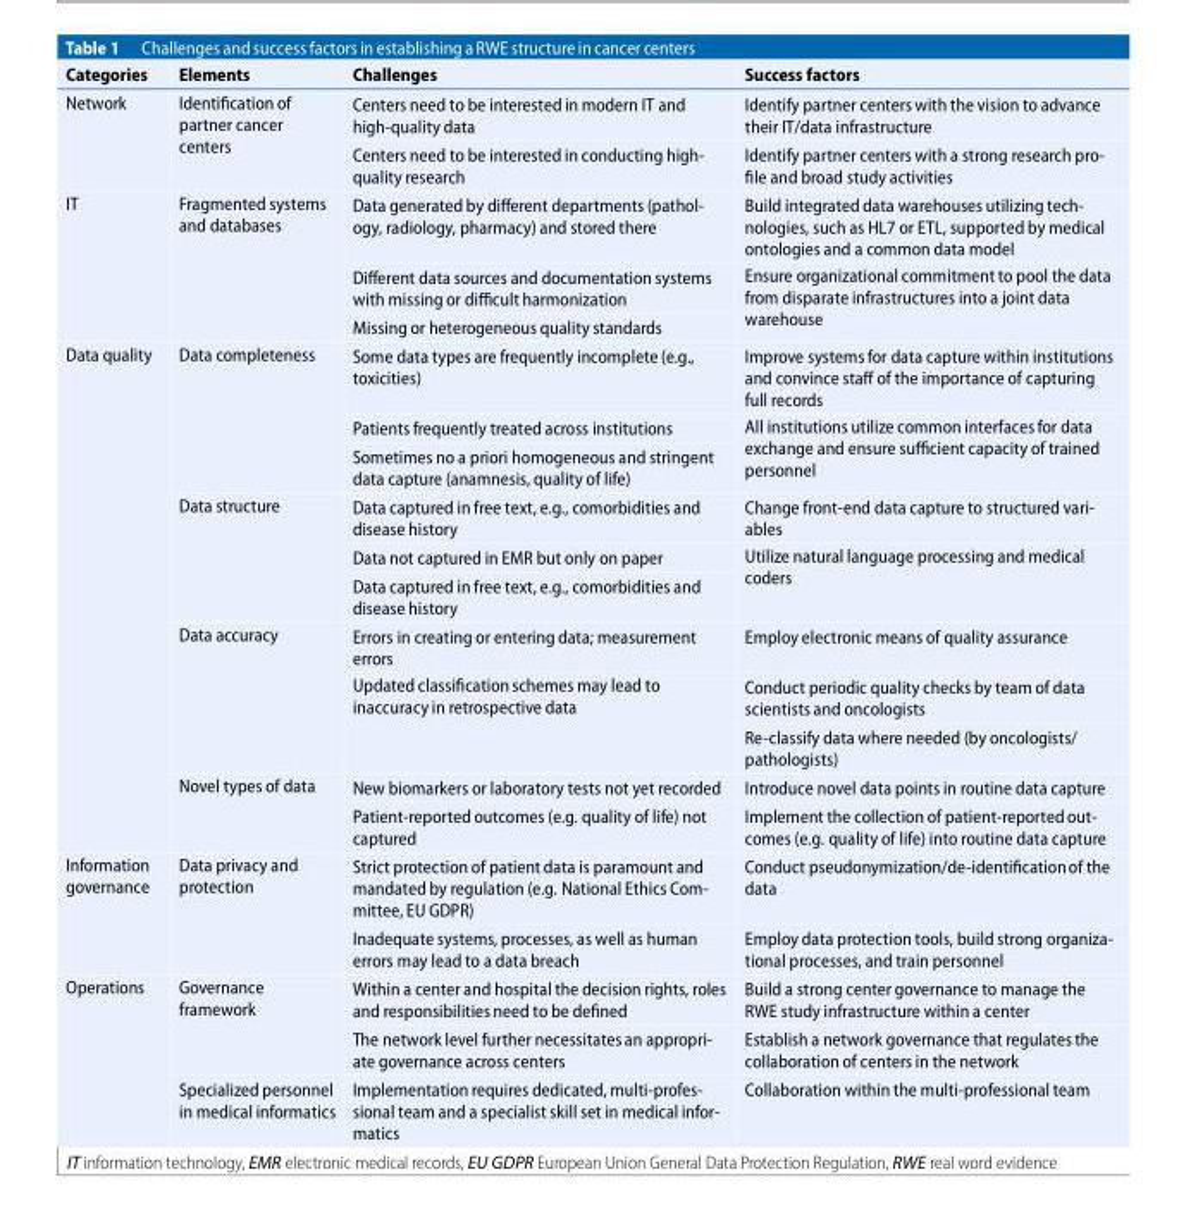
<table><thead><tr><td>Categories</td><td>Elements</td><td>Challenges</td><td>Success factors</td></tr></thead><tbody><tr><td rowspan="2">Network</td><td rowspan="2">Identification of partner cancer centers</td><td>Centers need to be interested in modern IT and high-quality data</td><td>Identify partner centers with the vision to advance their IT/data infrastructure</td></tr><tr><td>Centers need to be interested in conducting high- quality research</td><td>Identify partner centers with a strong research pro- file and broad study activities</td></tr><tr><td rowspan="3">IT</td><td rowspan="3">Fragmented systems and databases</td><td>Data generated by different departments (pathol- ogy, radiology, pharmacy) and stored there</td><td>Build integrateddata warehouses utilizing tech- nologies, such as HL7 or ETL, supported by medical ontologies and a common data model</td></tr><tr><td>Different data sources and documentation systems with missing or difficult harmonization</td><td rowspan="2">Ensure organizational commitment to pool the data from disparate infrastructures into a joint data warehouse</td></tr><tr><td>Missing or heterogeneous quality standards</td></tr><tr><td rowspan="11">Data quality</td><td rowspan="3">Data completeness</td><td>Some data types are frequently incomplete(e.g., toxicities)</td><td>Improve systems for data capture within institutions and convince staff of the importance of capturing full records</td></tr><tr><td>Patients frequently treated across institutions</td><td rowspan="2">All institutions utilize common interfaces for data exchange and ensure sufficient capacity of trained personnel</td></tr><tr><td>Sometimes no a priori homogeneous and stringent data capture (anamnesis, quality of life)</td></tr><tr><td rowspan="3">Data structure</td><td>Data captured in free text, e.g., comorbidities and disease history</td><td>Change front-end data capture to structured vari- ables</td></tr><tr><td>Data not captured in EMR but only on paper</td><td rowspan="2">Utilize natural language processing and medical coders</td></tr><tr><td>Data captured in free text, e.g., comorbidities and disease history</td></tr><tr><td rowspan="3">Data accuracy</td><td>Errors in creating or entering data; measurement errors</td><td>Employ electronic means of quality assurance</td></tr><tr><td rowspan="2">Updated classificationschemes may lead to inaccuracy in retrospective data</td><td>Conduct periodic quality checks by team of data scientists and oncologists</td></tr><tr><td>Re-classify data where needed (by oncologists/ pathologists)</td></tr><tr><td rowspan="2">Novel types of data</td><td>New biomarkers or laboratory tests not yet recorded</td><td>Introduce novel data points in routine data capture</td></tr><tr><td>Patient-reportedoutcomes (e.g. quality of life) not captured</td><td>Implement the collection of patient-reportedout- comes (e.g. quality of life) into routine data capture</td></tr><tr><td rowspan="2">Information governance</td><td rowspan="2">Data privacy and protection</td><td>Strict protection of patient data is paramount and mandated by regulation (e.g. National Ethics Com- mittee, EU GDPR)</td><td>Conduct pseudonymization/de-identificationof the data</td></tr><tr><td>Inadequate systems, processes, as well as human errors may lead to a data breach</td><td>Employ data protection tools, build strong organiza- tional processes, and train personnel</td></tr><tr><td rowspan="3">Operations</td><td rowspan="2">Governance framework</td><td>Within a center and hospital the decision rights, roles and responsibilitiesneed to be defined</td><td>Build a strong center governance to manage the RWE study infrastructure within a center</td></tr><tr><td>The network level further necessitatesan appropri- ate governance across centers</td><td>Establish a network governance that regulates the collaboration of centers in the network</td></tr><tr><td>Specialized personnel in medical informatics</td><td>Implementation requires dedicated, multi-profes- sional team and a specialist skill set in medical infor- matics</td><td>Collaboration within the multi-professional team</td></tr></tbody></table>